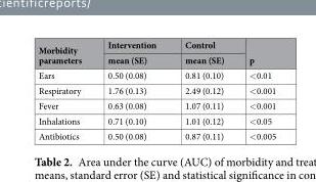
<table><thead><tr><td rowspan="2">Morbidity parameters</td><td rowspan="2">Intervention mean (SE)</td><td rowspan="2">Control mean (SE)</td><td rowspan="2">p</td></tr><tr></tr></thead><tbody><tr><td>Ears</td><td>0.50 (0.08)</td><td>0.81 (0.10)</td><td>&lt;0.01</td></tr><tr><td>Respiratory</td><td>1.76 (0.13)</td><td>2.49 (0.12)</td><td>&lt;0.001</td></tr><tr><td>Fever</td><td>0.63 (0.08)</td><td>1.07 (0.11)</td><td>&lt;0.001</td></tr><tr><td>Inhalations</td><td>0.71 (0.10)</td><td>1.01 (0.12)</td><td>&lt;0.05</td></tr><tr><td>Antibiotics</td><td>0.50 (0.08)</td><td>0.87 (0.11)</td><td>&lt;0.005</td></tr></tbody></table>